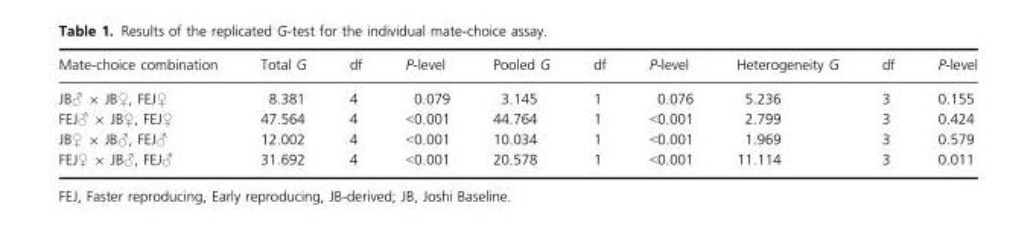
<table><thead><tr><td>Mate-choice combination</td><td>Total G</td><td>df</td><td>P-level</td><td>Pooled G</td><td>df</td><td>P-level</td><td>Heterogeneity G</td><td>df</td><td>P-level</td></tr></thead><tbody><tr><td>JB♂ × JB♀, FEJ♀</td><td>8.381</td><td>4</td><td>0.079</td><td>3.145</td><td>1</td><td>0.076</td><td>5.236</td><td>3</td><td>0.155</td></tr><tr><td>FEJ♂ × JB♀, FEJ♀</td><td>47.564</td><td>4</td><td>&lt;0.001</td><td>44.764</td><td>1</td><td>&lt;0.001</td><td>2.799</td><td>3</td><td>0.424</td></tr><tr><td>JB♀ × JB♂, FEJ♂</td><td>12.002</td><td>4</td><td>&lt;0.001</td><td>10.034</td><td>1</td><td>&lt;0.001</td><td>1.969</td><td>3</td><td>0.579</td></tr><tr><td>FEJ♀ × JB♂, FEJ♂</td><td>31.692</td><td>4</td><td>&lt;0.001</td><td>20.578</td><td>1</td><td>&lt;0.001</td><td>11.114</td><td>3</td><td>0.011</td></tr></tbody></table>